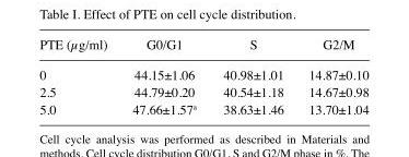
<table><thead><tr><td>PTE (µg/ml)</td><td>G0/G1</td><td>S</td><td>G2/M</td></tr></thead><tbody><tr><td>0</td><td>44.15±1.06</td><td>40.98±1.01</td><td>14.87±0.10</td></tr><tr><td>2.5</td><td>44.79±0.20</td><td>40.54±1.18</td><td>14.67±0.98</td></tr><tr><td>5.0</td><td>47.66±1.57<sup>a</sup></td><td>38.63±1.46</td><td>13.70±1.04</td></tr></tbody></table>